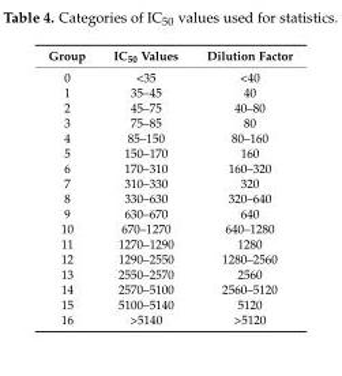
<table><thead><tr><td>Group</td><td>IC<sub>50</sub> Values</td><td>Dilution Factor</td></tr></thead><tbody><tr><td>0</td><td>&lt;35</td><td>&lt;40</td></tr><tr><td>1</td><td>35–45</td><td>40</td></tr><tr><td>2</td><td>45–75</td><td>40–80</td></tr><tr><td>3</td><td>75–85</td><td>80</td></tr><tr><td>4</td><td>85–150</td><td>80–160</td></tr><tr><td>5</td><td>150–170</td><td>160</td></tr><tr><td>6</td><td>170–310</td><td>160–320</td></tr><tr><td>7</td><td>310–330</td><td>320</td></tr><tr><td>8</td><td>330–630</td><td>320–640</td></tr><tr><td>9</td><td>630–670</td><td>640</td></tr><tr><td>10</td><td>670–1270</td><td>640–1280</td></tr><tr><td>11</td><td>1270–1290</td><td>1280</td></tr><tr><td>12</td><td>1290–2550</td><td>1280–2560</td></tr><tr><td>13</td><td>2550–2570</td><td>2560</td></tr><tr><td>14</td><td>2570–5100</td><td>2560–5120</td></tr><tr><td>15</td><td>5100–5140</td><td>5120</td></tr><tr><td>16</td><td>&gt;5140</td><td>&gt;5120</td></tr></tbody></table>